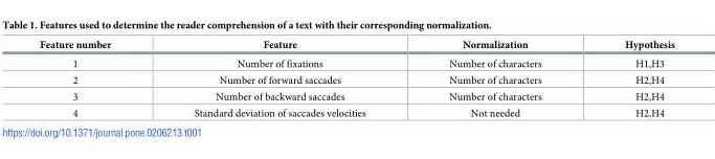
<table><thead><tr><td>Feature number</td><td>Feature</td><td>Normalization</td><td>Hypothesis</td></tr></thead><tbody><tr><td>1</td><td>Number of fixations</td><td>Number of characters</td><td>H1,H3</td></tr><tr><td>2</td><td>Number of forward saccades</td><td>Number of characters</td><td>H2,H4</td></tr><tr><td>3</td><td>Number of backward saccades</td><td>Number of characters</td><td>H2,H4</td></tr><tr><td>4</td><td>Standard deviation of saccades velocities</td><td>Not needed</td><td>H2,H4</td></tr></tbody></table>